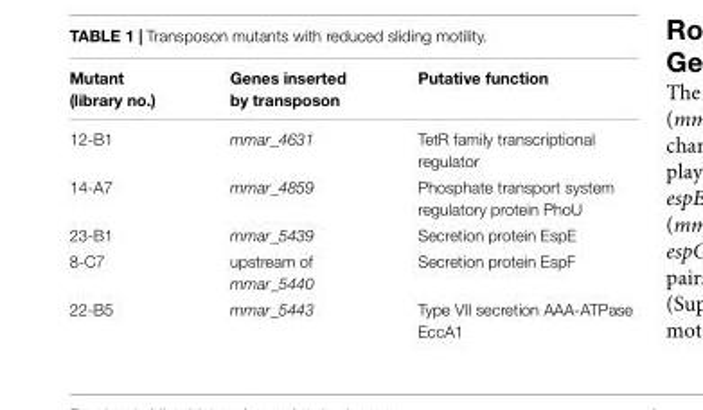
<table><thead><tr><td>Mutant (library no.)</td><td>Genes inserted by transposon</td><td>Putative function</td></tr></thead><tbody><tr><td>12-B1</td><td>mmar_4631</td><td>TetR family transcriptional regulator</td></tr><tr><td>14-A7</td><td>mmar_4859</td><td>Phosphate transport system regulatory protein PhoU</td></tr><tr><td>23-B1</td><td>mmar_5439</td><td>Secretion protein EspE</td></tr><tr><td>8-C7</td><td>upstream of mmar_5440</td><td>Secretion protein EspF</td></tr><tr><td>22-B5</td><td>mmar_5443</td><td>Type VII secretion AAA-ATPase EccA1</td></tr></tbody></table>